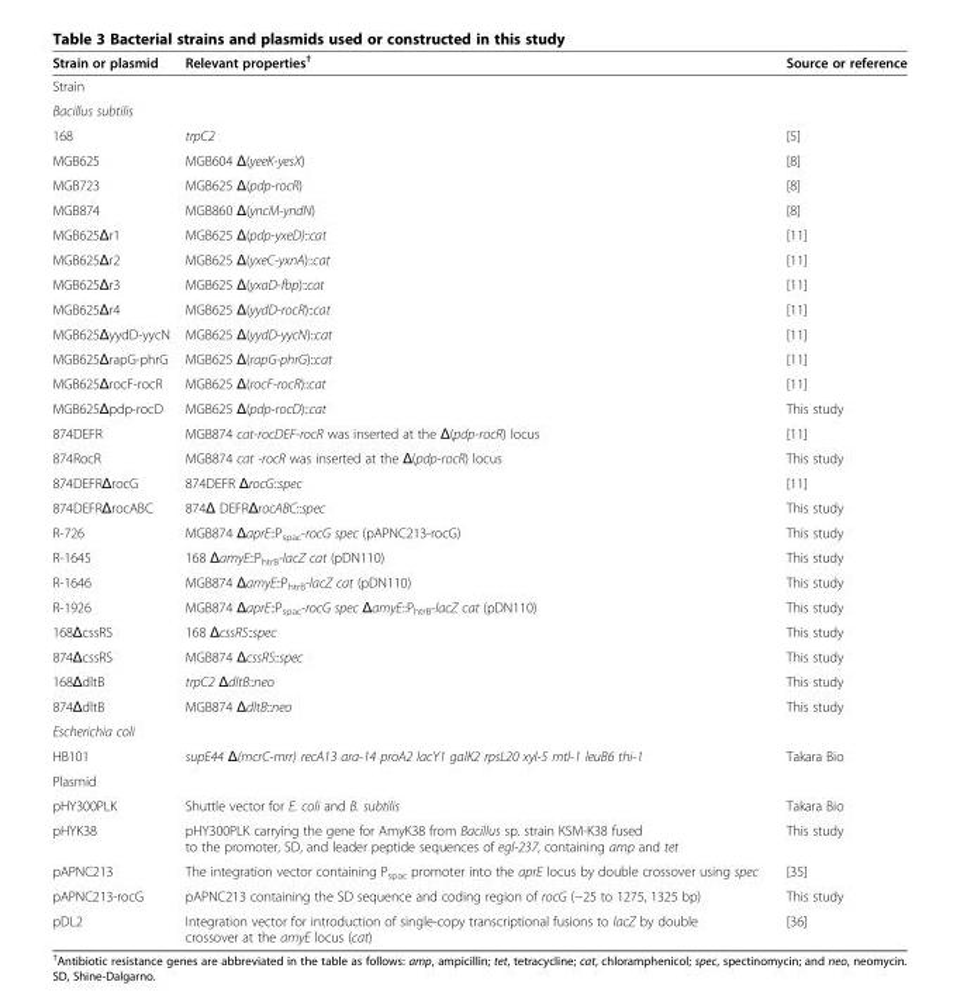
<table><thead><tr><td>Strain or plasmid</td><td>Relevant properties<sup>†</sup></td><td>Source or reference</td></tr></thead><tbody><tr><td colspan="3">Strain</td></tr><tr><td colspan="3">Bacillus subtilis</td></tr><tr><td>168</td><td>trpC2</td><td>[5]</td></tr><tr><td>MGB625</td><td>MGB604 Δ(yeeK-yesX)</td><td>[8]</td></tr><tr><td>MGB723</td><td>MGB625 Δ(pdp-rocR)</td><td>[8]</td></tr><tr><td>MGB874</td><td>MGB860 Δ(yncM-yndN)</td><td>[8]</td></tr><tr><td>MGB625Δr1</td><td>MGB625 Δ(pdp-yxeD)::cat</td><td>[11]</td></tr><tr><td>MGB625Δr2</td><td>MGB625 Δ(yxeC-yxnA)::cat</td><td>[11]</td></tr><tr><td>MGB625Δr3</td><td>MGB625 Δ(yxaD-fbp)::cat</td><td>[11]</td></tr><tr><td>MGB625Δr4</td><td>MGB625 Δ(yydD-rocR)::cat</td><td>[11]</td></tr><tr><td>MGB625ΔyydD-yycN</td><td>MGB625 Δ(yydD-yycN)::cat</td><td>[11]</td></tr><tr><td>MGB625ΔrapG-phrG</td><td>MGB625 Δ(rapG-phrG)::cat</td><td>[11]</td></tr><tr><td>MGB625ΔrocF-rocR</td><td>MGB625 Δ(rocF-rocR)::cat</td><td>[11]</td></tr><tr><td>MGB625Δpdp-rocD</td><td>MGB625 Δ(pdp-rocD)::cat</td><td>This study</td></tr><tr><td>874DEFR</td><td>MGB874 cat-rocDEF-rocR was inserted at the Δ(pdp-rocR) locus</td><td>[11]</td></tr><tr><td>874RocR</td><td>MGB874 cat -rocR was inserted at the Δ(pdp-rocR) locus</td><td>This study</td></tr><tr><td>874DEFRΔrocG</td><td>874DEFR ΔrocG::spec</td><td>[11]</td></tr><tr><td>874DEFRΔrocABC</td><td>874Δ DEFRΔrocABC::spec</td><td>This study</td></tr><tr><td>R-726</td><td>MGB874 ΔaprE::P<sub>spac</sub>-rocG spec (pAPNC213-rocG)</td><td>This study</td></tr><tr><td>R-1645</td><td>168 ΔamyE::P<sub>htrB</sub>-lacZ cat (pDN110)</td><td>This study</td></tr><tr><td>R-1646</td><td>MGB874 ΔamyE::P<sub>htrB</sub>-lacZ cat (pDN110)</td><td>This study</td></tr><tr><td>R-1926</td><td>MGB874 ΔaprE::P<sub>spac</sub>-rocG spec ΔamyE::P<sub>htrB</sub>-lacZ cat (pDN110)</td><td>This study</td></tr><tr><td>168ΔcssRS</td><td>168 ΔcssRS::spec</td><td>This study</td></tr><tr><td>874ΔcssRS</td><td>MGB874 ΔcssRS::spec</td><td>This study</td></tr><tr><td>168ΔdltB</td><td>trpC2 ΔdltB::neo</td><td>This study</td></tr><tr><td>874ΔdltB</td><td>MGB874 ΔdltB::neo</td><td>This study</td></tr><tr><td colspan="3">Escherichia coli</td></tr><tr><td>HB101</td><td>supE44 Δ(mcrC-mrr) recA13 ara-14 proA2 lacY1 galK2 rpsL20 xyl-5 mtl-1 leuB6 thi-1</td><td>Takara Bio</td></tr><tr><td colspan="3">Plasmid</td></tr><tr><td>pHY300PLK</td><td>Shuttle vector for E. coli and B. subtilis</td><td>Takara Bio</td></tr><tr><td>pHYK38</td><td>pHY300PLK carrying the gene for AmyK38 from Bacillus sp. strain KSM-K38 fused to the promoter, SD, and leader peptide sequences of egl-237, containing amp and tet</td><td>This study</td></tr><tr><td>pAPNC213</td><td>The integration vector containing P<sub>spac</sub> promoter into the aprE locus by double crossover using spec</td><td>[35]</td></tr><tr><td>pAPNC213-rocG</td><td>pAPNC213 containing the SD sequence and coding region of rocG (−25 to 1275, 1325 bp)</td><td>This study</td></tr><tr><td>pDL2</td><td>Integration vector for introduction of single-copy transcriptional fusions to lacZ by double crossover at the amyE locus (cat)</td><td>[36]</td></tr></tbody></table>